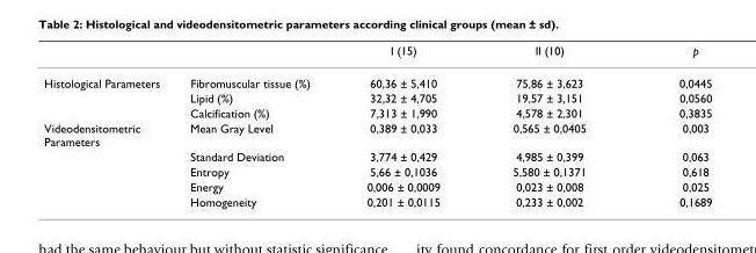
<table><thead><tr><td></td><td></td><td>I (15)</td><td>II (10)</td><td>p</td></tr></thead><tbody><tr><td rowspan="3">Histological Parameters</td><td>Fibromuscular tissue (%)</td><td>60,36 ± 5,410</td><td>75,86 ± 3,623</td><td>0,0445</td></tr><tr><td>Lipid (%)</td><td>32,32 ± 4,705</td><td>19,57 ± 3,151</td><td>0,0560</td></tr><tr><td>Calcification (%)</td><td>7,313 ± 1,990</td><td>4,578 ± 2,301</td><td>0,3835</td></tr><tr><td rowspan="5">Videodensitometric Parameters</td><td>Mean Gray Level</td><td>0,389 ± 0,033</td><td>0,565 ± 0,0405</td><td>0,003</td></tr><tr><td>Standard Deviation</td><td>3,774 ± 0,429</td><td>4,985 ± 0,399</td><td>0,063</td></tr><tr><td>Entropy</td><td>5,66 ± 0,1036</td><td>5,580 ± 0,1371</td><td>0,618</td></tr><tr><td>Energy</td><td>0,006 ± 0,0009</td><td>0,023 ± 0,008</td><td>0,025</td></tr><tr><td>Homogeneity</td><td>0,201 ± 0,0115</td><td>0,233 ± 0,002</td><td>0,1689</td></tr></tbody></table>